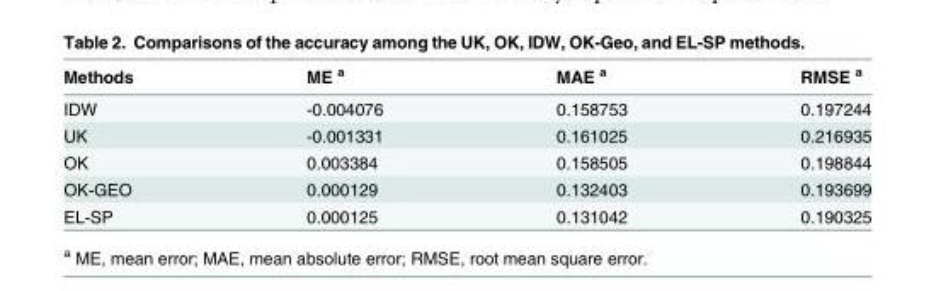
<table><thead><tr><td>Methods</td><td>ME <sup>a</sup></td><td>MAE <sup>a</sup></td><td>RMSE <sup>a</sup></td></tr></thead><tbody><tr><td>IDW</td><td>-0.004076</td><td>0.158753</td><td>0.197244</td></tr><tr><td>UK</td><td>-0.001331</td><td>0.161025</td><td>0.216935</td></tr><tr><td>OK</td><td>0.003384</td><td>0.158505</td><td>0.198844</td></tr><tr><td>OK-GEO</td><td>0.000129</td><td>0.132403</td><td>0.193699</td></tr><tr><td>EL-SP</td><td>0.000125</td><td>0.131042</td><td>0.190325</td></tr></tbody></table>